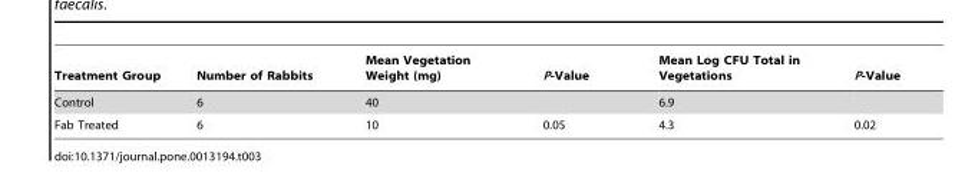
<table><thead><tr><td>Treatment Group</td><td>Number of Rabbits</td><td>Mean Vegetation Weight (mg)</td><td>P-Value</td><td>Mean Log CFU Total in Vegetations</td><td>P-Value</td></tr></thead><tbody><tr><td>Control</td><td>6</td><td>40</td><td></td><td>6.9</td><td></td></tr><tr><td>Fab Treated</td><td>6</td><td>10</td><td>0.05</td><td>4.3</td><td>0.02</td></tr></tbody></table>